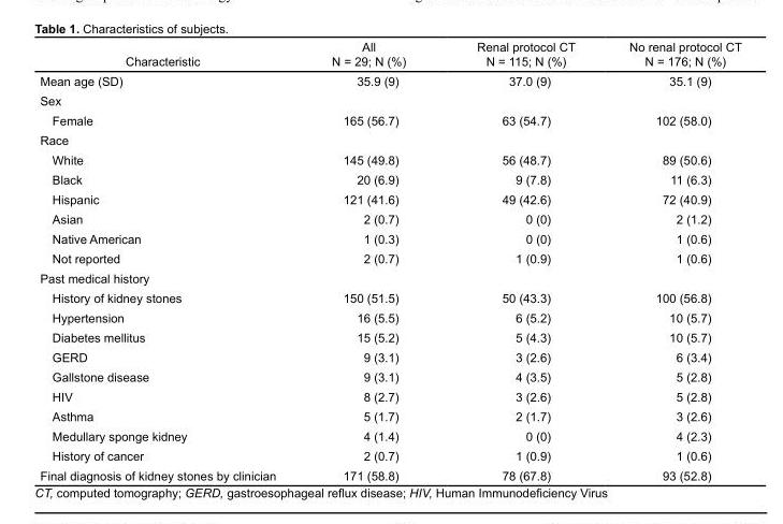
<table><thead><tr><td>Characteristic</td><td>All N = 29; N (%)</td><td>Renal protocol CT N = 115; N (%)</td><td>No renal protocol CT N = 176; N (%)</td></tr></thead><tbody><tr><td>Mean age (SD)</td><td>35.9 (9)</td><td>37.0 (9)</td><td>35.1 (9)</td></tr><tr><td colspan="4">Sex</td></tr><tr><td>Female</td><td>165 (56.7)</td><td>63 (54.7)</td><td>102 (58.0)</td></tr><tr><td colspan="4">Race</td></tr><tr><td>White</td><td>145 (49.8)</td><td>56 (48.7)</td><td>89 (50.6)</td></tr><tr><td>Black</td><td>20 (6.9)</td><td>9 (7.8)</td><td>11 (6.3)</td></tr><tr><td>Hispanic</td><td>121 (41.6)</td><td>49 (42.6)</td><td>72 (40.9)</td></tr><tr><td>Asian</td><td>2 (0.7)</td><td>0 (0)</td><td>2 (1.2)</td></tr><tr><td>Native American</td><td>1 (0.3)</td><td>0 (0)</td><td>1 (0.6)</td></tr><tr><td>Not reported</td><td>2 (0.7)</td><td>1 (0.9)</td><td>1 (0.6)</td></tr><tr><td colspan="4">Past medical history</td></tr><tr><td>History of kidney stones</td><td>150 (51.5)</td><td>50 (43.3)</td><td>100 (56.8)</td></tr><tr><td>Hypertension</td><td>16 (5.5)</td><td>6 (5.2)</td><td>10 (5.7)</td></tr><tr><td>Diabetes mellitus</td><td>15 (5.2)</td><td>5 (4.3)</td><td>10 (5.7)</td></tr><tr><td>GERD</td><td>9 (3.1)</td><td>3 (2.6)</td><td>6 (3.4)</td></tr><tr><td>Gallstone disease</td><td>9 (3.1)</td><td>4 (3.5)</td><td>5 (2.8)</td></tr><tr><td>HIV</td><td>8 (2.7)</td><td>3 (2.6)</td><td>5 (2.8)</td></tr><tr><td>Asthma</td><td>5 (1.7)</td><td>2 (1.7)</td><td>3 (2.6)</td></tr><tr><td>Medullary sponge kidney</td><td>4 (1.4)</td><td>0 (0)</td><td>4 (2.3)</td></tr><tr><td>History of cancer</td><td>2 (0.7)</td><td>1 (0.9)</td><td>1 (0.6)</td></tr><tr><td>Final diagnosis of kidney stones by clinician</td><td>171 (58.8)</td><td>78 (67.8)</td><td>93 (52.8)</td></tr></tbody></table>